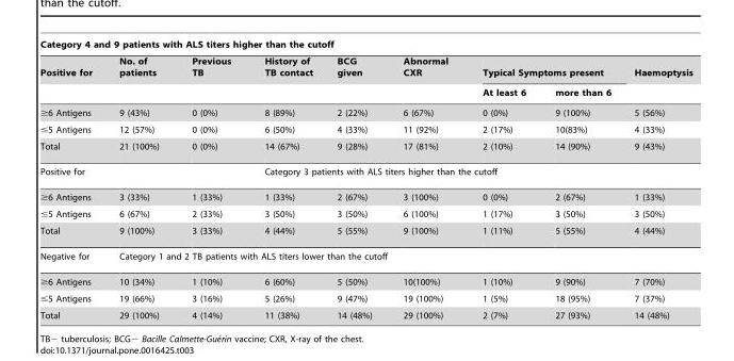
<table><thead><tr><td colspan="9">Category 4 and 9 patients with ALS titers higher than the cutoff</td></tr><tr><td rowspan="2">Positive for</td><td rowspan="2">No. of patients</td><td rowspan="2">Previous TB</td><td rowspan="2">History of TB contact</td><td rowspan="2">BCG given</td><td rowspan="2">Abnormal CXR</td><td colspan="2">Typical Symptoms present</td><td rowspan="2">Haemoptysis</td></tr><tr><td>At least 6</td><td>more than 6</td></tr></thead><tbody><tr><td>≥6 Antigens</td><td>9 (43%)</td><td>0 (0%)</td><td>8 (89%)</td><td>2 (22%)</td><td>6 (67%)</td><td>0 (0%)</td><td>9 (100%)</td><td>5 (56%)</td></tr><tr><td>≤5 Antigens</td><td>12 (57%)</td><td>0 (0%)</td><td>6 (50%)</td><td>4 (33%)</td><td>11 (92%)</td><td>2 (17%)</td><td>10(83%)</td><td>4 (33%)</td></tr><tr><td>Total</td><td>21 (100%)</td><td>0 (0%)</td><td>14 (67%)</td><td>9 (28%)</td><td>17 (81%)</td><td>2 (10%)</td><td>14 (90%)</td><td>9 (43%)</td></tr><tr><td>Positive for</td><td></td><td></td><td colspan="5">Category 3 patients with ALS titers higher than the cutoff</td><td></td></tr><tr><td>≥6 Antigens</td><td>3 (33%)</td><td>1 (33%)</td><td>1 (33%)</td><td>2 (67%)</td><td>3 (100%)</td><td>0 (0%)</td><td>2 (67%)</td><td>1 (33%)</td></tr><tr><td>≤5 Antigens</td><td>6 (67%)</td><td>2 (33%)</td><td>3 (50%)</td><td>3 (50%)</td><td>6 (100%)</td><td>1 (17%)</td><td>3 (50%)</td><td>3 (50%)</td></tr><tr><td>Total</td><td>9 (100%)</td><td>3 (33%)</td><td>4 (44%)</td><td>5 (55%)</td><td>9 (100%)</td><td>1 (11%)</td><td>5 (55%)</td><td>4 (44%)</td></tr><tr><td>Negative for</td><td colspan="8">Category 1 and 2 TB patients with ALS titers lower than the cutoff</td></tr><tr><td>≥6 Antigens</td><td>10 (34%)</td><td>1 (10%)</td><td>6 (60%)</td><td>5 (50%)</td><td>10(100%)</td><td>1 (10%)</td><td>9 (90%)</td><td>7 (70%)</td></tr><tr><td>≤5 Antigens</td><td>19 (66%)</td><td>3 (16%)</td><td>5 (26%)</td><td>9 (47%)</td><td>19 (100%)</td><td>1 (5%)</td><td>18 (95%)</td><td>7 (37%)</td></tr><tr><td>Total</td><td>29 (100%)</td><td>4 (14%)</td><td>11 (38%)</td><td>14 (48%)</td><td>29 (100%)</td><td>2 (7%)</td><td>27 (93%)</td><td>14 (48%)</td></tr></tbody></table>